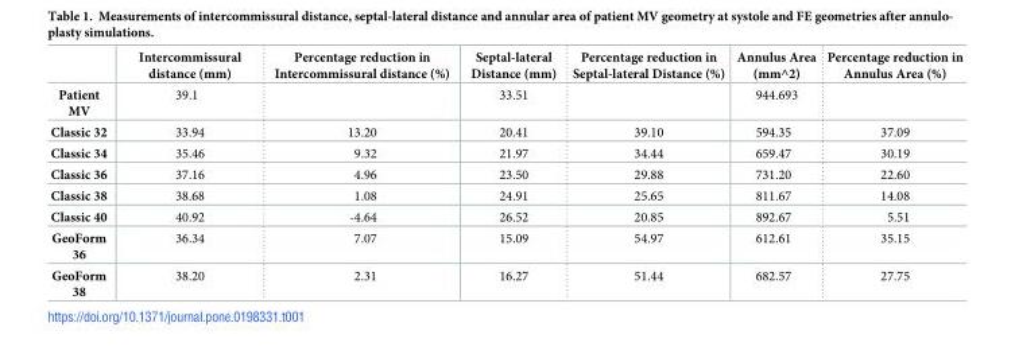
<table><thead><tr><td></td><td>Intercommissural distance (mm)</td><td>Percentage reduction in Intercommissural distance (%)</td><td>Septal-lateral Distance (mm)</td><td>Percentage reduction in Septal-lateral Distance (%)</td><td>Annulus Area (mm^2)</td><td>Percentage reduction in Annulus Area (%)</td></tr></thead><tbody><tr><td>Patient MV</td><td>39.1</td><td></td><td>33.51</td><td></td><td>944.693</td><td></td></tr><tr><td>Classic 32</td><td>33.94</td><td>13.20</td><td>20.41</td><td>39.10</td><td>594.35</td><td>37.09</td></tr><tr><td>Classic 34</td><td>35.46</td><td>9.32</td><td>21.97</td><td>34.44</td><td>659.47</td><td>30.19</td></tr><tr><td>Classic 36</td><td>37.16</td><td>4.96</td><td>23.50</td><td>29.88</td><td>731.20</td><td>22.60</td></tr><tr><td>Classic 38</td><td>38.68</td><td>1.08</td><td>24.91</td><td>25.65</td><td>811.67</td><td>14.08</td></tr><tr><td>Classic 40</td><td>40.92</td><td>-4.64</td><td>26.52</td><td>20.85</td><td>892.67</td><td>5.51</td></tr><tr><td>GeoForm 36</td><td>36.34</td><td>7.07</td><td>15.09</td><td>54.97</td><td>612.61</td><td>35.15</td></tr><tr><td>GeoForm 38</td><td>38.20</td><td>2.31</td><td>16.27</td><td>51.44</td><td>682.57</td><td>27.75</td></tr></tbody></table>